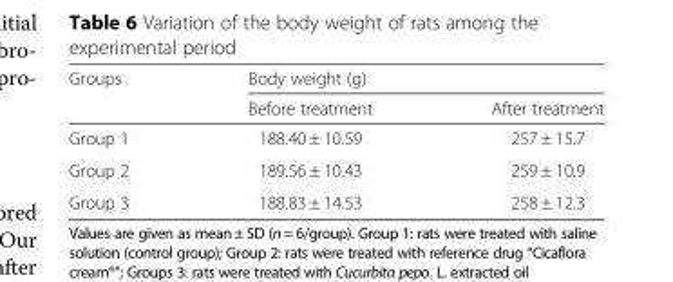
<table><thead><tr><td rowspan="2">Groups</td><td colspan="2">Body weight (g)</td></tr><tr><td>Before treatment</td><td>After treatment</td></tr></thead><tbody><tr><td>Group 1</td><td>188.40 ± 10.59</td><td>257 ± 15.7</td></tr><tr><td>Group 2</td><td>189.56 ± 10.43</td><td>259 ± 10.9</td></tr><tr><td>Group 3</td><td>188.83 ± 14.53</td><td>258 ± 12.3</td></tr></tbody></table>